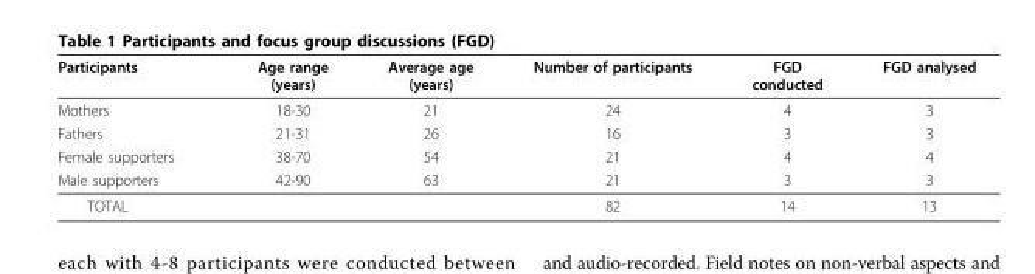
<table><thead><tr><td>Participants</td><td>Age range (years)</td><td>Average age (years)</td><td>Number of participants</td><td>FGD conducted</td><td>FGD analysed</td></tr></thead><tbody><tr><td>Mothers</td><td>18-30</td><td>21</td><td>24</td><td>4</td><td>3</td></tr><tr><td>Fathers</td><td>21-31</td><td>26</td><td>16</td><td>3</td><td>3</td></tr><tr><td>Female supporters</td><td>38-70</td><td>54</td><td>21</td><td>4</td><td>4</td></tr><tr><td>Male supporters</td><td>42-90</td><td>63</td><td>21</td><td>3</td><td>3</td></tr><tr><td>TOTAL</td><td></td><td></td><td>82</td><td>14</td><td>13</td></tr></tbody></table>